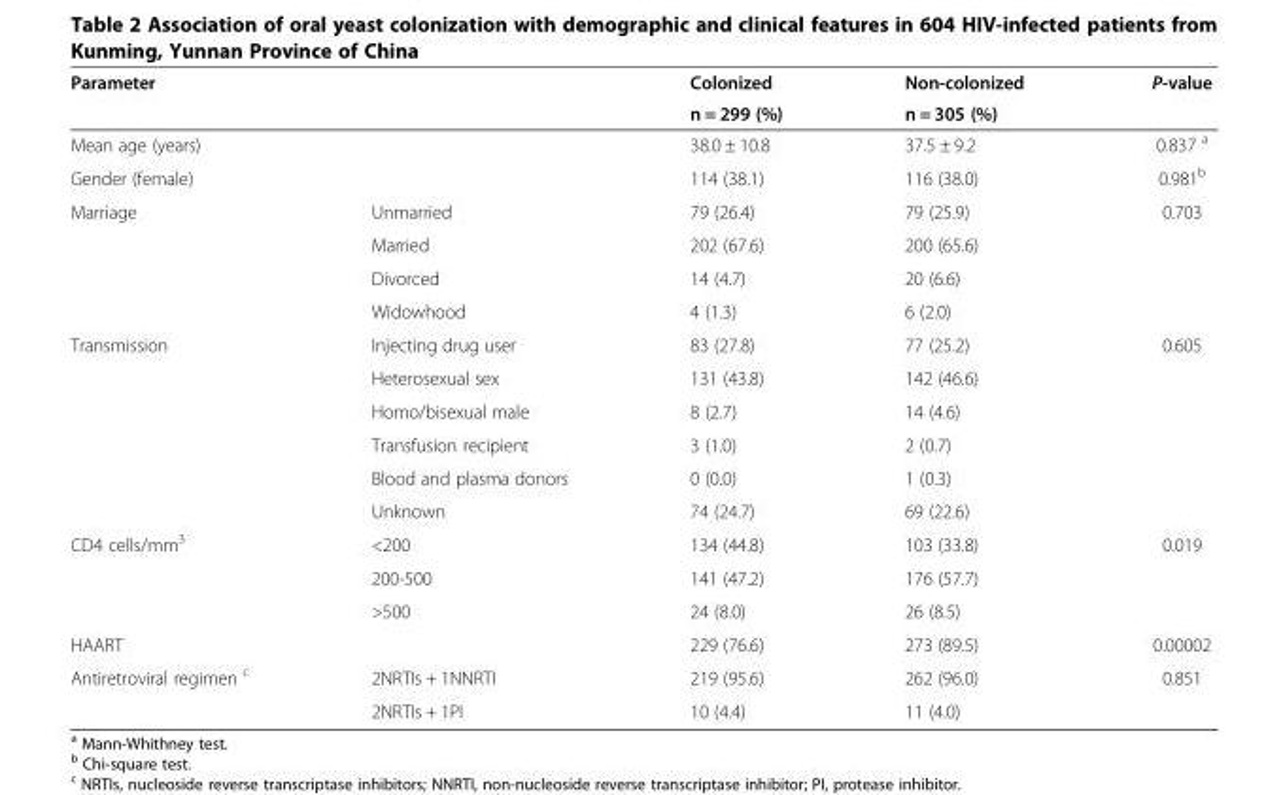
<table><thead><tr><td colspan="2">Parameter</td><td rowspan="2">Colonized n = 299 (%)</td><td rowspan="2">Non-colonized n = 305 (%)</td><td rowspan="2">P-value</td></tr><tr><td></td><td></td></tr></thead><tbody><tr><td colspan="2">Mean age (years)</td><td>38.0 ± 10.8</td><td>37.5 ± 9.2</td><td>0.837 <sup>a</sup></td></tr><tr><td colspan="2">Gender (female)</td><td>114 (38.1)</td><td>116 (38.0)</td><td>0.981<sup>b</sup></td></tr><tr><td rowspan="4">Marriage</td><td>Unmarried</td><td>79 (26.4)</td><td>79 (25.9)</td><td>0.703</td></tr><tr><td>Married</td><td>202 (67.6)</td><td>200 (65.6)</td><td></td></tr><tr><td>Divorced</td><td>14 (4.7)</td><td>20 (6.6)</td><td></td></tr><tr><td>Widowhood</td><td>4 (1.3)</td><td>6 (2.0)</td><td></td></tr><tr><td rowspan="6">Transmission</td><td>Injecting drug user</td><td>83 (27.8)</td><td>77 (25.2)</td><td>0.605</td></tr><tr><td>Heterosexual sex</td><td>131 (43.8)</td><td>142 (46.6)</td><td></td></tr><tr><td>Homo/bisexual male</td><td>8 (2.7)</td><td>14 (4.6)</td><td></td></tr><tr><td>Transfusion recipient</td><td>3 (1.0)</td><td>2 (0.7)</td><td></td></tr><tr><td>Blood and plasma donors</td><td>0 (0.0)</td><td>1 (0.3)</td><td></td></tr><tr><td>Unknown</td><td>74 (24.7)</td><td>69 (22.6)</td><td></td></tr><tr><td rowspan="3">CD4 cells/mm<sup>3</sup></td><td>&lt;200</td><td>134 (44.8)</td><td>103 (33.8)</td><td>0.019</td></tr><tr><td>200-500</td><td>141 (47.2)</td><td>176 (57.7)</td><td></td></tr><tr><td>&gt;500</td><td>24 (8.0)</td><td>26 (8.5)</td><td></td></tr><tr><td colspan="2">HAART</td><td>229 (76.6)</td><td>273 (89.5)</td><td>0.00002</td></tr><tr><td rowspan="2">Antiretroviral regimen <sup>c</sup></td><td>2NRTIs + 1NNRTI</td><td>219 (95.6)</td><td>262 (96.0)</td><td>0.851</td></tr><tr><td>2NRTIs + 1PI</td><td>10 (4.4)</td><td>11 (4.0)</td><td></td></tr></tbody></table>